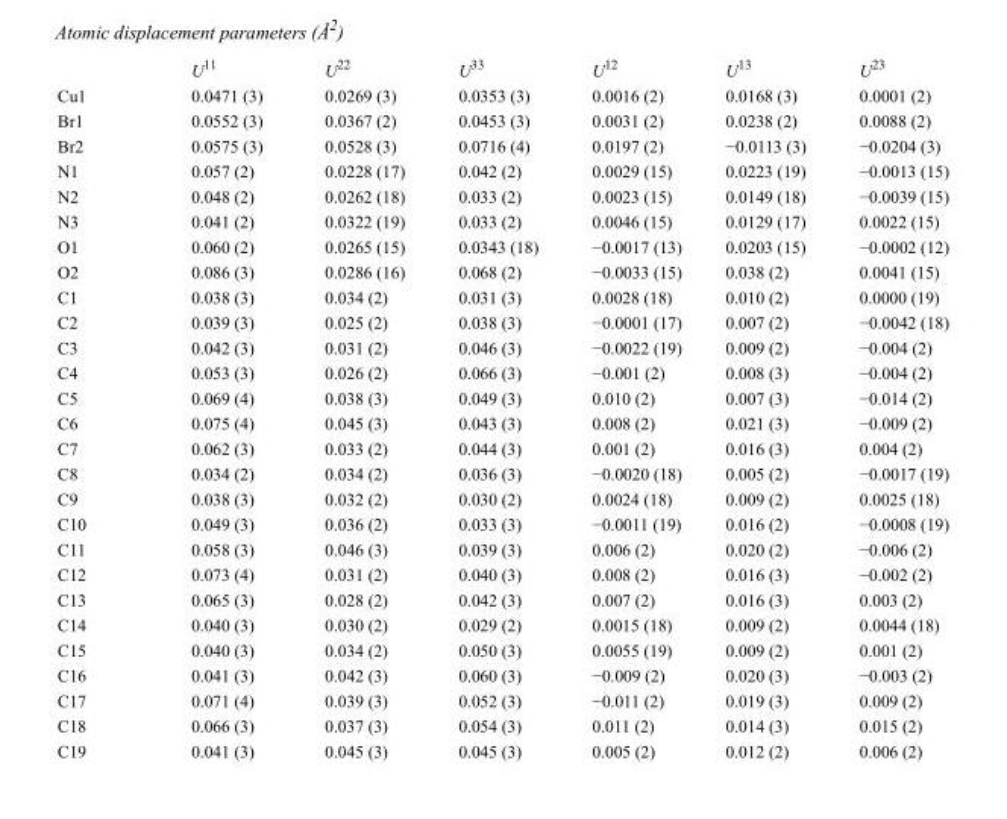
<table><thead><tr><td></td><td>U<sup>11</sup></td><td>U<sup>22</sup></td><td>U<sup>33</sup></td><td>U<sup>12</sup></td><td>U<sup>13</sup></td><td>U<sup>23</sup></td></tr></thead><tbody><tr><td>Cu1</td><td>0.0471 (3)</td><td>0.0269 (3)</td><td>0.0353 (3)</td><td>0.0016 (2)</td><td>0.0168 (3)</td><td>0.0001 (2)</td></tr><tr><td>Br1</td><td>0.0552 (3)</td><td>0.0367 (2)</td><td>0.0453 (3)</td><td>0.0031 (2)</td><td>0.0238 (2)</td><td>0.0088 (2)</td></tr><tr><td>Br2</td><td>0.0575 (3)</td><td>0.0528 (3)</td><td>0.0716 (4)</td><td>0.0197 (2)</td><td>−0.0113 (3)</td><td>−0.0204 (3)</td></tr><tr><td>N1</td><td>0.057 (2)</td><td>0.0228 (17)</td><td>0.042 (2)</td><td>0.0029 (15)</td><td>0.0223 (19)</td><td>−0.0013 (15)</td></tr><tr><td>N2</td><td>0.048 (2)</td><td>0.0262 (18)</td><td>0.033 (2)</td><td>0.0023 (15)</td><td>0.0149 (18)</td><td>−0.0039 (15)</td></tr><tr><td>N3</td><td>0.041 (2)</td><td>0.0322 (19)</td><td>0.033 (2)</td><td>0.0046 (15)</td><td>0.0129 (17)</td><td>0.0022 (15)</td></tr><tr><td>O1</td><td>0.060 (2)</td><td>0.0265 (15)</td><td>0.0343 (18)</td><td>−0.0017 (13)</td><td>0.0203 (15)</td><td>−0.0002 (12)</td></tr><tr><td>O2</td><td>0.086 (3)</td><td>0.0286 (16)</td><td>0.068 (2)</td><td>−0.0033 (15)</td><td>0.038 (2)</td><td>0.0041 (15)</td></tr><tr><td>C1</td><td>0.038 (3)</td><td>0.034 (2)</td><td>0.031 (3)</td><td>0.0028 (18)</td><td>0.010 (2)</td><td>0.0000 (19)</td></tr><tr><td>C2</td><td>0.039 (3)</td><td>0.025 (2)</td><td>0.038 (3)</td><td>−0.0001 (17)</td><td>0.007 (2)</td><td>−0.0042 (18)</td></tr><tr><td>C3</td><td>0.042 (3)</td><td>0.031 (2)</td><td>0.046 (3)</td><td>−0.0022 (19)</td><td>0.009 (2)</td><td>−0.004 (2)</td></tr><tr><td>C4</td><td>0.053 (3)</td><td>0.026 (2)</td><td>0.066 (3)</td><td>−0.001 (2)</td><td>0.008 (3)</td><td>−0.004 (2)</td></tr><tr><td>C5</td><td>0.069 (4)</td><td>0.038 (3)</td><td>0.049 (3)</td><td>0.010 (2)</td><td>0.007 (3)</td><td>−0.014 (2)</td></tr><tr><td>C6</td><td>0.075 (4)</td><td>0.045 (3)</td><td>0.043 (3)</td><td>0.008 (2)</td><td>0.021 (3)</td><td>−0.009 (2)</td></tr><tr><td>C7</td><td>0.062 (3)</td><td>0.033 (2)</td><td>0.044 (3)</td><td>0.001 (2)</td><td>0.016 (3)</td><td>0.004 (2)</td></tr><tr><td>C8</td><td>0.034 (2)</td><td>0.034 (2)</td><td>0.036 (3)</td><td>−0.0020 (18)</td><td>0.005 (2)</td><td>−0.0017 (19)</td></tr><tr><td>C9</td><td>0.038 (3)</td><td>0.032 (2)</td><td>0.030 (2)</td><td>0.0024 (18)</td><td>0.009 (2)</td><td>0.0025 (18)</td></tr><tr><td>C10</td><td>0.049 (3)</td><td>0.036 (2)</td><td>0.033 (3)</td><td>−0.0011 (19)</td><td>0.016 (2)</td><td>−0.0008 (19)</td></tr><tr><td>C11</td><td>0.058 (3)</td><td>0.046 (3)</td><td>0.039 (3)</td><td>0.006 (2)</td><td>0.020 (2)</td><td>−0.006 (2)</td></tr><tr><td>C12</td><td>0.073 (4)</td><td>0.031 (2)</td><td>0.040 (3)</td><td>0.008 (2)</td><td>0.016 (3)</td><td>−0.002 (2)</td></tr><tr><td>C13</td><td>0.065 (3)</td><td>0.028 (2)</td><td>0.042 (3)</td><td>0.007 (2)</td><td>0.016 (3)</td><td>0.003 (2)</td></tr><tr><td>C14</td><td>0.040 (3)</td><td>0.030 (2)</td><td>0.029 (2)</td><td>0.0015 (18)</td><td>0.009 (2)</td><td>0.0044 (18)</td></tr><tr><td>C15</td><td>0.040 (3)</td><td>0.034 (2)</td><td>0.050 (3)</td><td>0.0055 (19)</td><td>0.009 (2)</td><td>0.001 (2)</td></tr><tr><td>C16</td><td>0.041 (3)</td><td>0.042 (3)</td><td>0.060 (3)</td><td>−0.009 (2)</td><td>0.020 (3)</td><td>−0.003 (2)</td></tr><tr><td>C17</td><td>0.071 (4)</td><td>0.039 (3)</td><td>0.052 (3)</td><td>−0.011 (2)</td><td>0.019 (3)</td><td>0.009 (2)</td></tr><tr><td>C18</td><td>0.066 (3)</td><td>0.037 (3)</td><td>0.054 (3)</td><td>0.011 (2)</td><td>0.014 (3)</td><td>0.015 (2)</td></tr><tr><td>C19</td><td>0.041 (3)</td><td>0.045 (3)</td><td>0.045 (3)</td><td>0.005 (2)</td><td>0.012 (2)</td><td>0.006 (2)</td></tr></tbody></table>